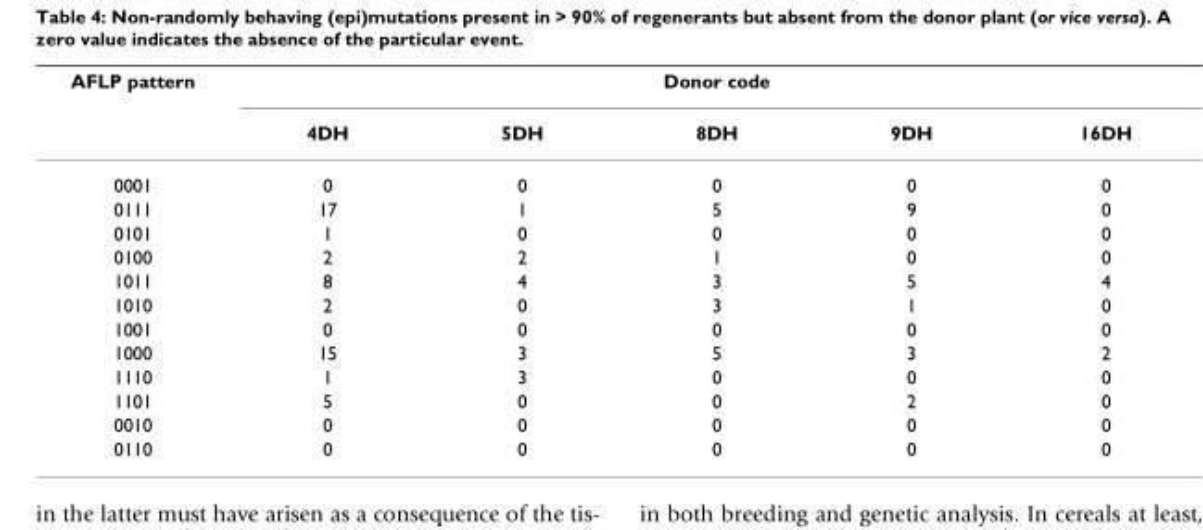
<table><thead><tr><td rowspan="2">AFLP pattern</td><td colspan="5">Donor code</td></tr><tr><td>4DH</td><td>5DH</td><td>8DH</td><td>9DH</td><td>16DH</td></tr></thead><tbody><tr><td>0001</td><td>0</td><td>0</td><td>0</td><td>0</td><td>0</td></tr><tr><td>0111</td><td>17</td><td>1</td><td>5</td><td>9</td><td>0</td></tr><tr><td>0101</td><td>1</td><td>0</td><td>0</td><td>0</td><td>0</td></tr><tr><td>0100</td><td>2</td><td>2</td><td>1</td><td>0</td><td>0</td></tr><tr><td>1011</td><td>8</td><td>4</td><td>3</td><td>5</td><td>4</td></tr><tr><td>1010</td><td>2</td><td>0</td><td>3</td><td>1</td><td>0</td></tr><tr><td>1001</td><td>0</td><td>0</td><td>0</td><td>0</td><td>0</td></tr><tr><td>1000</td><td>15</td><td>3</td><td>5</td><td>3</td><td>2</td></tr><tr><td>1110</td><td>1</td><td>3</td><td>0</td><td>0</td><td>0</td></tr><tr><td>1101</td><td>5</td><td>0</td><td>0</td><td>2</td><td>0</td></tr><tr><td>0010</td><td>0</td><td>0</td><td>0</td><td>0</td><td>0</td></tr><tr><td>0110</td><td>0</td><td>0</td><td>0</td><td>0</td><td>0</td></tr></tbody></table>